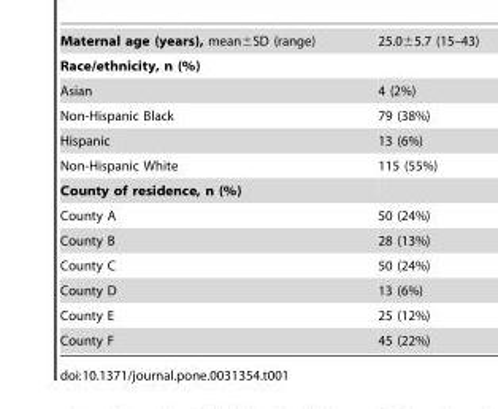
<table><tbody><tr><td colspan="2">Race/ethnicity, n (%)</td></tr><tr><td>Asian</td><td>4 (2%)</td></tr><tr><td>Non-Hispanic Black</td><td>79 (38%)</td></tr><tr><td>Hispanic</td><td>13 (6%)</td></tr><tr><td>Non-Hispanic White</td><td>115 (55%)</td></tr><tr><td colspan="2">County of residence, n (%)</td></tr><tr><td>County A</td><td>50 (24%)</td></tr><tr><td>County B</td><td>28 (13%)</td></tr><tr><td>County C</td><td>50 (24%)</td></tr><tr><td>County D</td><td>13 (6%)</td></tr><tr><td>County E</td><td>25 (12%)</td></tr><tr><td>County F</td><td>45 (22%)</td></tr></tbody></table>